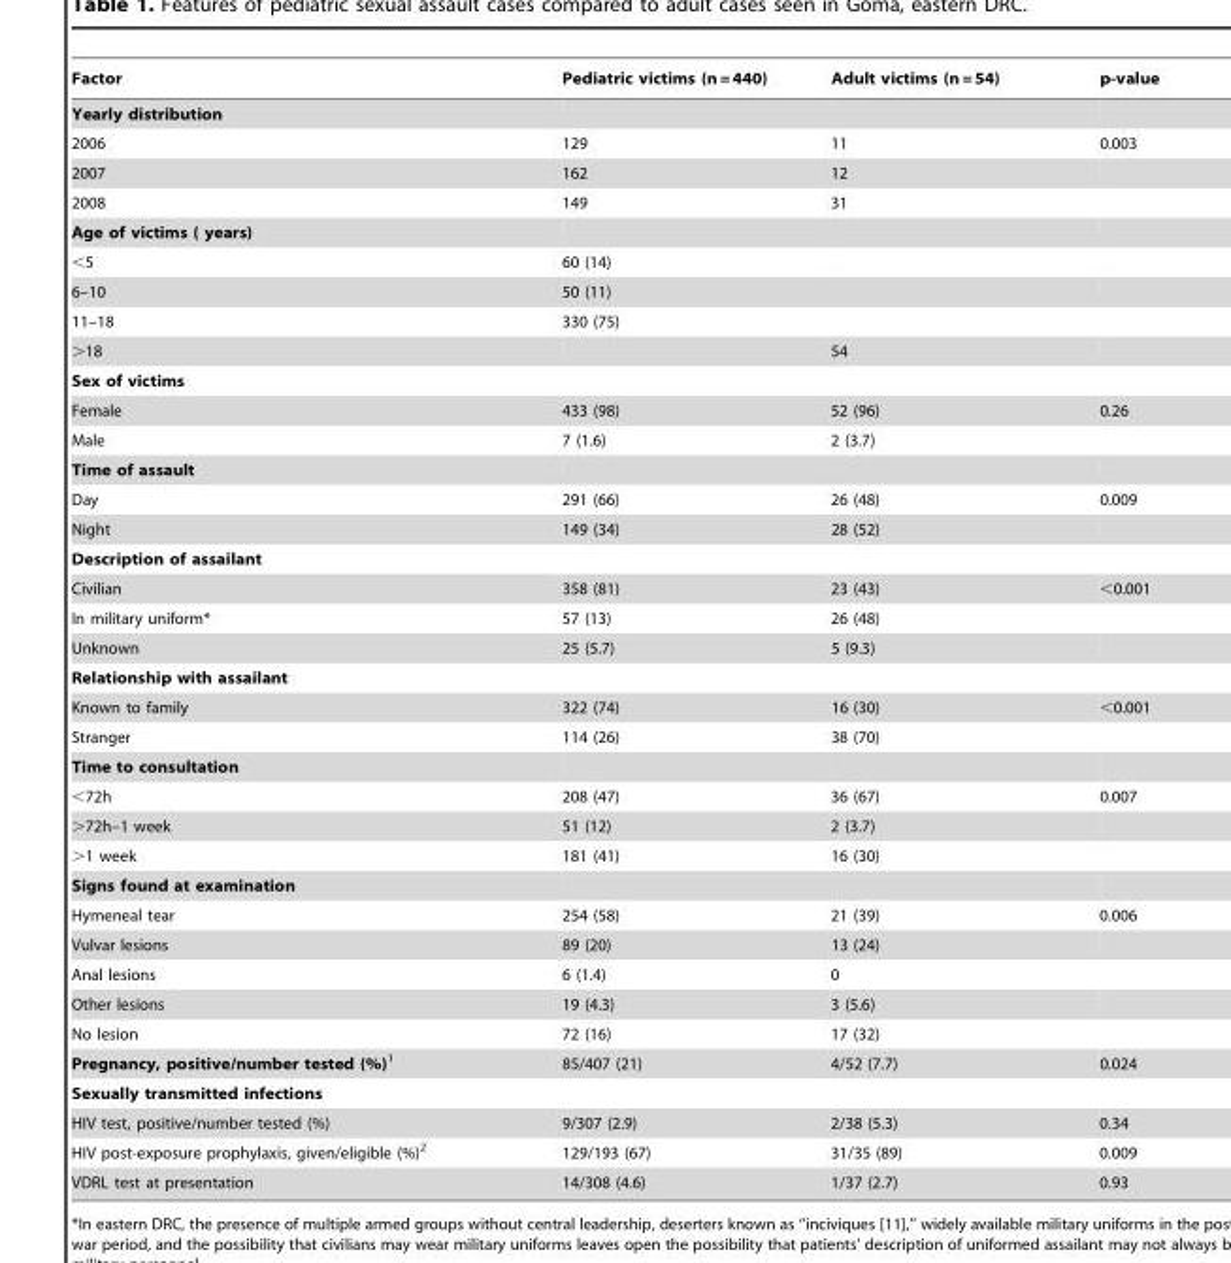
<table><thead><tr><td>Factor</td><td>Pediatric victims (n = 440)</td><td>Adult victims (n = 54)</td><td>p-value</td></tr></thead><tbody><tr><td colspan="4">Yearly distribution</td></tr><tr><td>2006</td><td>129</td><td>11</td><td>0.003</td></tr><tr><td>2007</td><td>162</td><td>12</td><td></td></tr><tr><td>2008</td><td>149</td><td>31</td><td></td></tr><tr><td colspan="4">Age of victims ( years)</td></tr><tr><td>&lt;5</td><td>60 (14)</td><td></td><td></td></tr><tr><td>6–10</td><td>50 (11)</td><td></td><td></td></tr><tr><td>11–18</td><td>330 (75)</td><td></td><td></td></tr><tr><td>&gt;18</td><td></td><td>54</td><td></td></tr><tr><td colspan="4">Sex of victims</td></tr><tr><td>Female</td><td>433 (98)</td><td>52 (96)</td><td>0.26</td></tr><tr><td>Male</td><td>7 (1.6)</td><td>2 (3.7)</td><td></td></tr><tr><td colspan="4">Time of assault</td></tr><tr><td>Day</td><td>291 (66)</td><td>26 (48)</td><td>0.009</td></tr><tr><td>Night</td><td>149 (34)</td><td>28 (52)</td><td></td></tr><tr><td colspan="4">Description of assailant</td></tr><tr><td>Civilian</td><td>358 (81)</td><td>23 (43)</td><td>&lt;0.001</td></tr><tr><td>In military uniform*</td><td>57 (13)</td><td>26 (48)</td><td></td></tr><tr><td>Unknown</td><td>25 (5.7)</td><td>5 (9.3)</td><td></td></tr><tr><td colspan="4">Relationship with assailant</td></tr><tr><td>Known to family</td><td>322 (74)</td><td>16 (30)</td><td>&lt;0.001</td></tr><tr><td>Stranger</td><td>114 (26)</td><td>38 (70)</td><td></td></tr><tr><td colspan="4">Time to consultation</td></tr><tr><td>&lt;72h</td><td>208 (47)</td><td>36 (67)</td><td>0.007</td></tr><tr><td>&gt;72h–1 week</td><td>51 (12)</td><td>2 (3.7)</td><td></td></tr><tr><td>&gt;1 week</td><td>181 (41)</td><td>16 (30)</td><td></td></tr><tr><td colspan="4">Signs found at examination</td></tr><tr><td>Hymeneal tear</td><td>254 (58)</td><td>21 (39)</td><td>0.006</td></tr><tr><td>Vulvar lesions</td><td>89 (20)</td><td>13 (24)</td><td></td></tr><tr><td>Anal lesions</td><td>6 (1.4)</td><td>0</td><td></td></tr><tr><td>Other lesions</td><td>19 (4.3)</td><td>3 (5.6)</td><td></td></tr><tr><td>No lesion</td><td>72 (16)</td><td>17 (32)</td><td></td></tr><tr><td>Pregnancy, positive/number tested (%)<sup>1</sup></td><td>85/407 (21)</td><td>4/52 (7.7)</td><td>0.024</td></tr><tr><td colspan="4">Sexually transmitted infections</td></tr><tr><td>HIV test, positive/number tested (%)</td><td>9/307 (2.9)</td><td>2/38 (5.3)</td><td>0.34</td></tr><tr><td>HIV post-exposure prophylaxis, given/eligible (%)<sup>2</sup></td><td>129/193 (67)</td><td>31/35 (89)</td><td>0.009</td></tr><tr><td>VDRL test at presentation</td><td>14/308 (4.6)</td><td>1/37 (2.7)</td><td>0.93</td></tr></tbody></table>